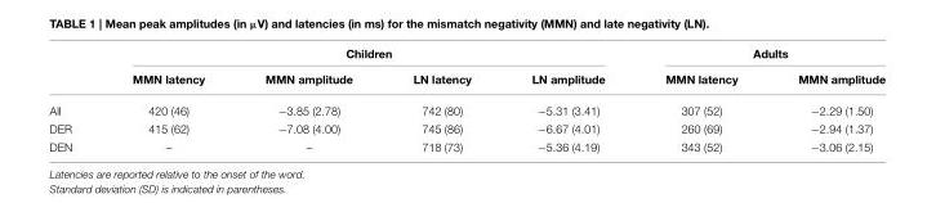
<table><thead><tr><td rowspan="2"></td><td colspan="4">Children</td><td colspan="2">Adults</td></tr><tr><td>MMN latency</td><td>MMN amplitude</td><td>LN latency</td><td>LN amplitude</td><td>MMN latency</td><td>MMN amplitude</td></tr></thead><tbody><tr><td>All</td><td>420 (46)</td><td>−3.85 (2.78)</td><td>742 (80)</td><td>−5.31 (3.41)</td><td>307 (52)</td><td>−2.29 (1.50)</td></tr><tr><td>DER</td><td>415 (62)</td><td>−7.08 (4.00)</td><td>745 (86)</td><td>−6.67 (4.01)</td><td>260 (69)</td><td>−2.94 (1.37)</td></tr><tr><td>DEN</td><td>–</td><td>–</td><td>718 (73)</td><td>−5.36 (4.19)</td><td>343 (52)</td><td>−3.06 (2.15)</td></tr></tbody></table>